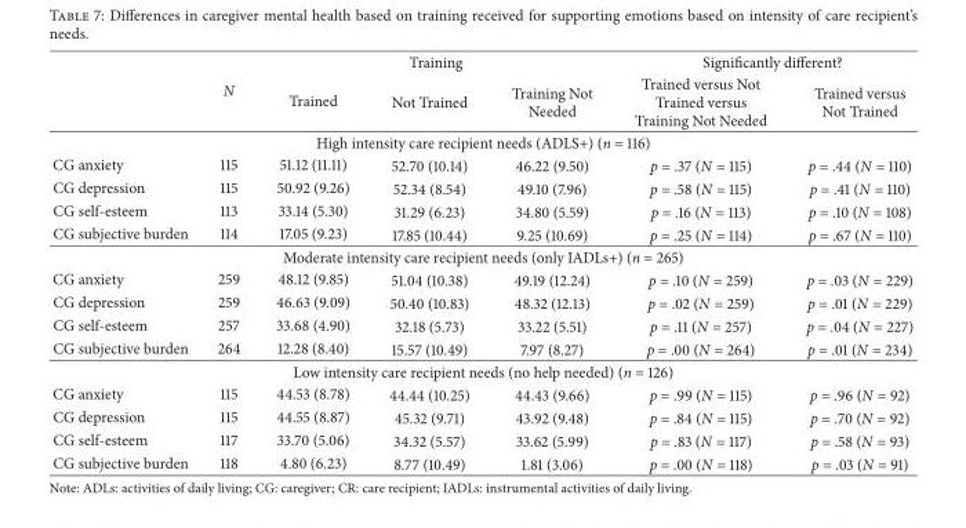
<table><thead><tr><td rowspan="2"></td><td rowspan="2">N</td><td colspan="3">Training</td><td colspan="2">Significantly different?</td></tr><tr><td>Trained</td><td>Not Trained</td><td>Training Not Needed</td><td>Trained versus Not Trained versus Training Not Needed</td><td>Trained versus Not Trained</td></tr></thead><tbody><tr><td colspan="7">High intensity care recipient needs (ADLS+) (n = 116)</td></tr><tr><td>CG anxiety</td><td>115</td><td>51.12 (11.11)</td><td>52.70 (10.14)</td><td>46.22 (9.50)</td><td>p = .37 (N = 115)</td><td>p = .44 (N = 110)</td></tr><tr><td>CG depression</td><td>115</td><td>50.92 (9.26)</td><td>52.34 (8.54)</td><td>49.10 (7.96)</td><td>p = .58 (N = 115)</td><td>p = .41 (N = 110)</td></tr><tr><td>CG self-esteem</td><td>113</td><td>33.14 (5.30)</td><td>31.29 (6.23)</td><td>34.80 (5.59)</td><td>p = .16 (N = 113)</td><td>p = .10 (N = 108)</td></tr><tr><td>CG subjective burden</td><td>114</td><td>17.05 (9.23)</td><td>17.85 (10.44)</td><td>9.25 (10.69)</td><td>p = .25 (N = 114)</td><td>p = .67 (N = 110)</td></tr><tr><td colspan="7">Moderate intensity care recipient needs (only IADLs+) (n = 265)</td></tr><tr><td>CG anxiety</td><td>259</td><td>48.12 (9.85)</td><td>51.04 (10.38)</td><td>49.19 (12.24)</td><td>p = .10 (N = 259)</td><td>p = .03 (N = 229)</td></tr><tr><td>CG depression</td><td>259</td><td>46.63 (9.09)</td><td>50.40 (10.83)</td><td>48.32 (12.13)</td><td>p = .02 (N = 259)</td><td>p = .01 (N = 229)</td></tr><tr><td>CG self-esteem</td><td>257</td><td>33.68 (4.90)</td><td>32.18 (5.73)</td><td>33.22 (5.51)</td><td>p = .11 (N = 257)</td><td>p = .04 (N = 227)</td></tr><tr><td>CG subjective burden</td><td>264</td><td>12.28 (8.40)</td><td>15.57 (10.49)</td><td>7.97 (8.27)</td><td>p = .00 (N = 264)</td><td>p = .01 (N = 234)</td></tr><tr><td colspan="7">Low intensity care recipient needs (no help needed) (n = 126)</td></tr><tr><td>CG anxiety</td><td>115</td><td>44.53 (8.78)</td><td>44.44 (10.25)</td><td>44.43 (9.66)</td><td>p = .99 (N = 115)</td><td>p = .96 (N = 92)</td></tr><tr><td>CG depression</td><td>115</td><td>44.55 (8.87)</td><td>45.32 (9.71)</td><td>43.92 (9.48)</td><td>p = .84 (N = 115)</td><td>p = .70 (N = 92)</td></tr><tr><td>CG self-esteem</td><td>117</td><td>33.70 (5.06)</td><td>34.32 (5.57)</td><td>33.62 (5.99)</td><td>p = .83 (N = 117)</td><td>p = .58 (N = 93)</td></tr><tr><td>CG subjective burden</td><td>118</td><td>4.80 (6.23)</td><td>8.77 (10.49)</td><td>1.81 (3.06)</td><td>p = .00 (N = 118)</td><td>p = .03 (N = 91)</td></tr></tbody></table>